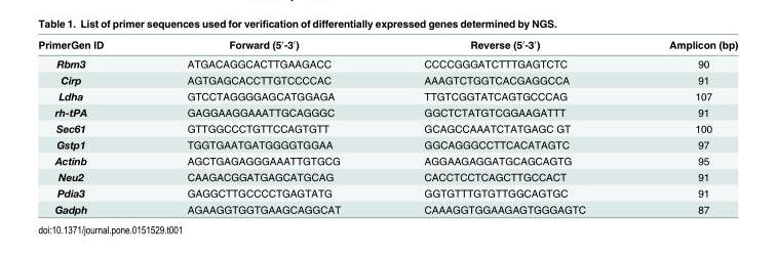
<table><thead><tr><td>PrimerGen ID</td><td>Forward (5′-3′)</td><td>Reverse (5′-3′)</td><td>Amplicon (bp)</td></tr></thead><tbody><tr><td>Rbm3</td><td>ATGACAGGCACTTGAAGACC</td><td>CCCCGGGATCTTTGAGTCTC</td><td>90</td></tr><tr><td>Cirp</td><td>AGTGAGCACCTTGTCCCCAC</td><td>AAAGTCTGGTCACGAGGCCA</td><td>91</td></tr><tr><td>Ldha</td><td>GTCCTAGGGGAGCATGGAGA</td><td>TTGTCGGTATCAGTGCCCAG</td><td>107</td></tr><tr><td>rh-tPA</td><td>GAGGAAGGAAATTGCAGGGC</td><td>GGCTCTATGTCGGAAGATTT</td><td>91</td></tr><tr><td>Sec61</td><td>GTTGGCCCTGTTCCAGTGTT</td><td>GCAGCCAAATCTATGAGC GT</td><td>100</td></tr><tr><td>Gstp1</td><td>TGGTGAATGATGGGGTGGAA</td><td>GGCAGGGCCTTCACATAGTC</td><td>97</td></tr><tr><td>Actinb</td><td>AGCTGAGAGGGAAATTGTGCG</td><td>AGGAAGAGGATGCAGCAGTG</td><td>95</td></tr><tr><td>Neu2</td><td>CAAGACGGATGAGCATGCAG</td><td>CACCTCCTCAGCTTGCCACT</td><td>91</td></tr><tr><td>Pdia3</td><td>GAGGCTTGCCCCTGAGTATG</td><td>GGTGTTTGTGTTGGCAGTGC</td><td>91</td></tr><tr><td>Gadph</td><td>AGAAGGTGGTGAAGCAGGCAT</td><td>CAAAGGTGGAAGAGTGGGAGTC</td><td>87</td></tr></tbody></table>